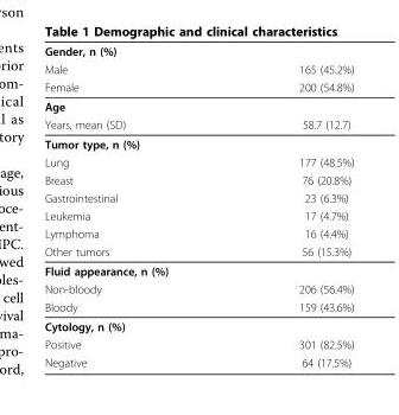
<table><thead><tr><td rowspan="3">Gender, n (%) Male Female</td><td rowspan="3">165 (45.2%) 200 (54.8%)</td></tr><tr></tr><tr></tr></thead><tbody><tr><td colspan="2">Age</td></tr><tr><td>Years, mean (SD)</td><td>58.7 (12.7)</td></tr><tr><td colspan="2">Tumor type, n (%)</td></tr><tr><td>Lung</td><td>177 (48.5%)</td></tr><tr><td>Breast</td><td>76 (20.8%)</td></tr><tr><td>Gastrointestinal</td><td>23 (6.3%)</td></tr><tr><td>Leukemia</td><td>17 (4.7%)</td></tr><tr><td>Lymphoma</td><td>16 (4.4%)</td></tr><tr><td>Other tumors</td><td>56 (15.3%)</td></tr><tr><td colspan="2">Fluid appearance, n (%)</td></tr><tr><td>Non-bloody</td><td>206 (56.4%)</td></tr><tr><td>Bloody</td><td>159 (43.6%)</td></tr><tr><td colspan="2">Cytology, n (%)</td></tr><tr><td>Positive</td><td>301 (82.5%)</td></tr><tr><td>Negative</td><td>64 (17.5%)</td></tr></tbody></table>